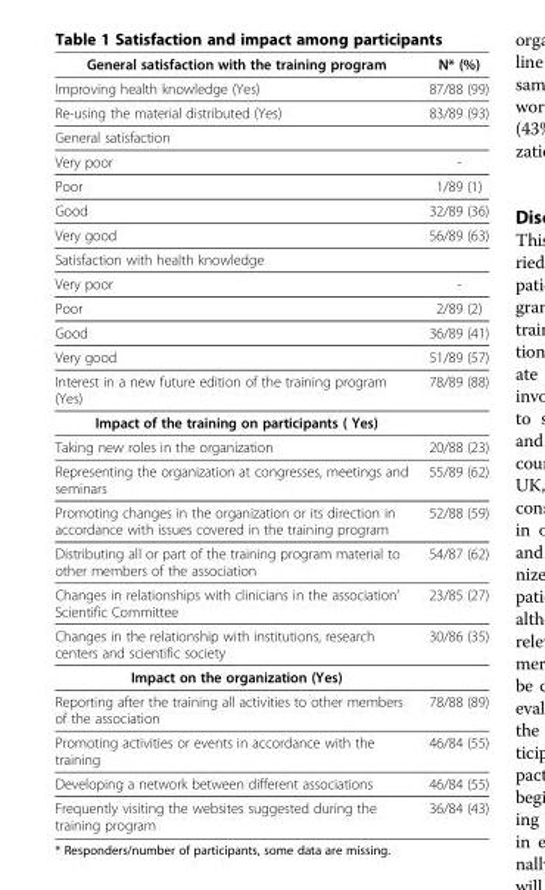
<table><thead><tr><td>General satisfaction with the training program</td><td>N* (%)</td></tr></thead><tbody><tr><td>Improving health knowledge (Yes)</td><td>87/88 (99)</td></tr><tr><td>Re-using the material distributed (Yes)</td><td>83/89 (93)</td></tr><tr><td colspan="2">General satisfaction</td></tr><tr><td>Very poor</td><td>-</td></tr><tr><td>Poor</td><td>1/89 (1)</td></tr><tr><td>Good</td><td>32/89 (36)</td></tr><tr><td>Very good</td><td>56/89 (63)</td></tr><tr><td colspan="2">Satisfaction with health knowledge</td></tr><tr><td>Very poor</td><td>-</td></tr><tr><td>Poor</td><td>2/89 (2)</td></tr><tr><td>Good</td><td>36/89 (41)</td></tr><tr><td>Very good</td><td>51/89 (57)</td></tr><tr><td>Interest in a new future edition of the training program (Yes)</td><td>78/89 (88)</td></tr><tr><td colspan="2">Impact of the training on participants ( Yes)</td></tr><tr><td>Taking new roles in the organization</td><td>20/88 (23)</td></tr><tr><td>Representing the organization at congresses, meetings and seminars</td><td>55/89 (62)</td></tr><tr><td>Promoting changes in the organization or its direction in accordance with issues covered in the training program</td><td>52/88 (59)</td></tr><tr><td>Distributing all or part of the training program material to other members of the association</td><td>54/87 (62)</td></tr><tr><td>Changes in relationships with clinicians in the association’ Scientific Committee</td><td>23/85 (27)</td></tr><tr><td>Changes in the relationship with institutions, research centers and scientific society</td><td>30/86 (35)</td></tr><tr><td colspan="2">Impact on the organization (Yes)</td></tr><tr><td>Reporting after the training all activities to other members of the association</td><td>78/88 (89)</td></tr><tr><td>Promoting activities or events in accordance with the training</td><td>46/84 (55)</td></tr><tr><td>Developing a network between different associations</td><td>46/84 (55)</td></tr><tr><td>Frequently visiting the websites suggested during the training program</td><td>36/84 (43)</td></tr></tbody></table>